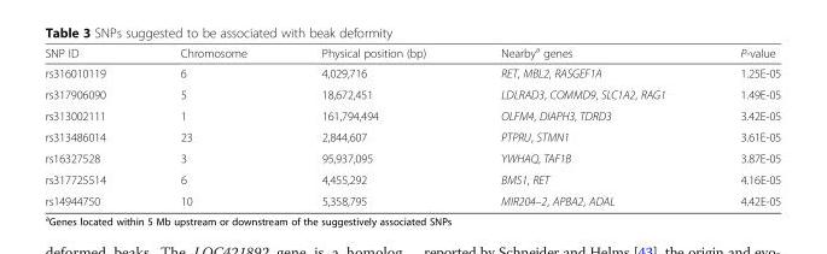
<table><thead><tr><td>SNP ID</td><td>Chromosome</td><td>Physical position (bp)</td><td>Nearby<sup>a</sup> genes</td><td>P-value</td></tr></thead><tbody><tr><td>rs316010119</td><td>6</td><td>4,029,716</td><td>RET, MBL2, RASGEF1A</td><td>1.25E-05</td></tr><tr><td>rs317906090</td><td>5</td><td>18,672,451</td><td>LDLRAD3, COMMD9, SLC1A2, RAG1</td><td>1.49E-05</td></tr><tr><td>rs313002111</td><td>1</td><td>161,794,494</td><td>OLFM4, DIAPH3, TDRD3</td><td>3.42E-05</td></tr><tr><td>rs313486014</td><td>23</td><td>2,844,607</td><td>PTPRU, STMN1</td><td>3.61E-05</td></tr><tr><td>rs16327528</td><td>3</td><td>95,937,095</td><td>YWHAQ, TAF1B</td><td>3.87E-05</td></tr><tr><td>rs317725514</td><td>6</td><td>4,455,292</td><td>BMS1, RET</td><td>4.16E-05</td></tr><tr><td>rs14944750</td><td>10</td><td>5,358,795</td><td>MIR204–2, APBA2, ADAL</td><td>4.42E-05</td></tr></tbody></table>